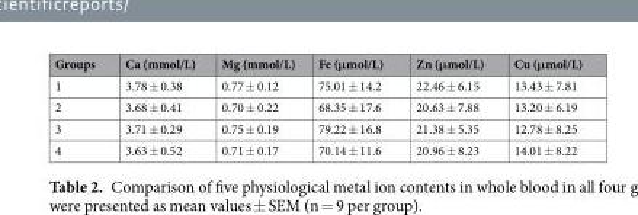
<table><thead><tr><td>Groups</td><td>Ca (mmol/L)</td><td>Mg (mmol/L)</td><td>Fe (μmol/L)</td><td>Zn (μmol/L)</td><td>Cu (μmol/L)</td></tr></thead><tbody><tr><td>1</td><td>3.78 ± 0.38</td><td>0.77 ± 0.12</td><td>75.01 ± 14.2</td><td>22.46 ± 6.15</td><td>13.43 ± 7.81</td></tr><tr><td>2</td><td>3.68 ± 0.41</td><td>0.70 ± 0.22</td><td>68.35 ± 17.6</td><td>20.63 ± 7.88</td><td>13.20 ± 6.19</td></tr><tr><td>3</td><td>3.71 ± 0.29</td><td>0.75 ± 0.19</td><td>79.22 ± 16.8</td><td>21.38 ± 5.35</td><td>12.78 ± 8.25</td></tr><tr><td>4</td><td>3.63 ± 0.52</td><td>0.71 ± 0.17</td><td>70.14 ± 11.6</td><td>20.96 ± 8.23</td><td>14.01 ± 8.22</td></tr></tbody></table>